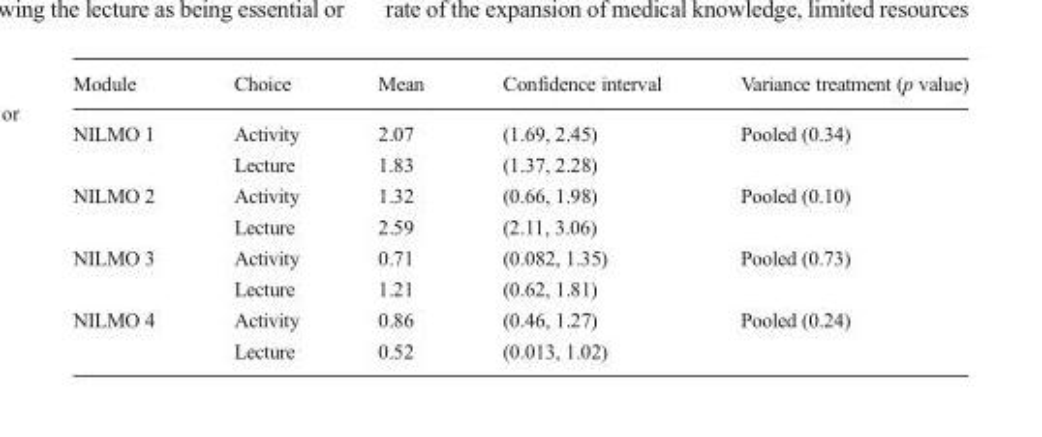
<table><thead><tr><td>Module</td><td>Choice</td><td>Mean</td><td>Confidence interval</td><td>Variance treatment (p value)</td></tr></thead><tbody><tr><td rowspan="2">NILMO 1</td><td>Activity</td><td>2.07</td><td>(1.69, 2.45)</td><td>Pooled (0.34)</td></tr><tr><td>Lecture</td><td>1.83</td><td>(1.37, 2.28)</td><td></td></tr><tr><td rowspan="2">NILMO 2</td><td>Activity</td><td>1.32</td><td>(0.66, 1.98)</td><td>Pooled (0.10)</td></tr><tr><td>Lecture</td><td>2.59</td><td>(2.11, 3.06)</td><td></td></tr><tr><td rowspan="2">NILMO 3</td><td>Activity</td><td>0.71</td><td>(0.082, 1.35)</td><td>Pooled (0.73)</td></tr><tr><td>Lecture</td><td>1.21</td><td>(0.62, 1.81)</td><td></td></tr><tr><td rowspan="2">NILMO 4</td><td>Activity</td><td>0.86</td><td>(0.46, 1.27)</td><td>Pooled (0.24)</td></tr><tr><td>Lecture</td><td>0.52</td><td>(0.013, 1.02)</td><td></td></tr></tbody></table>